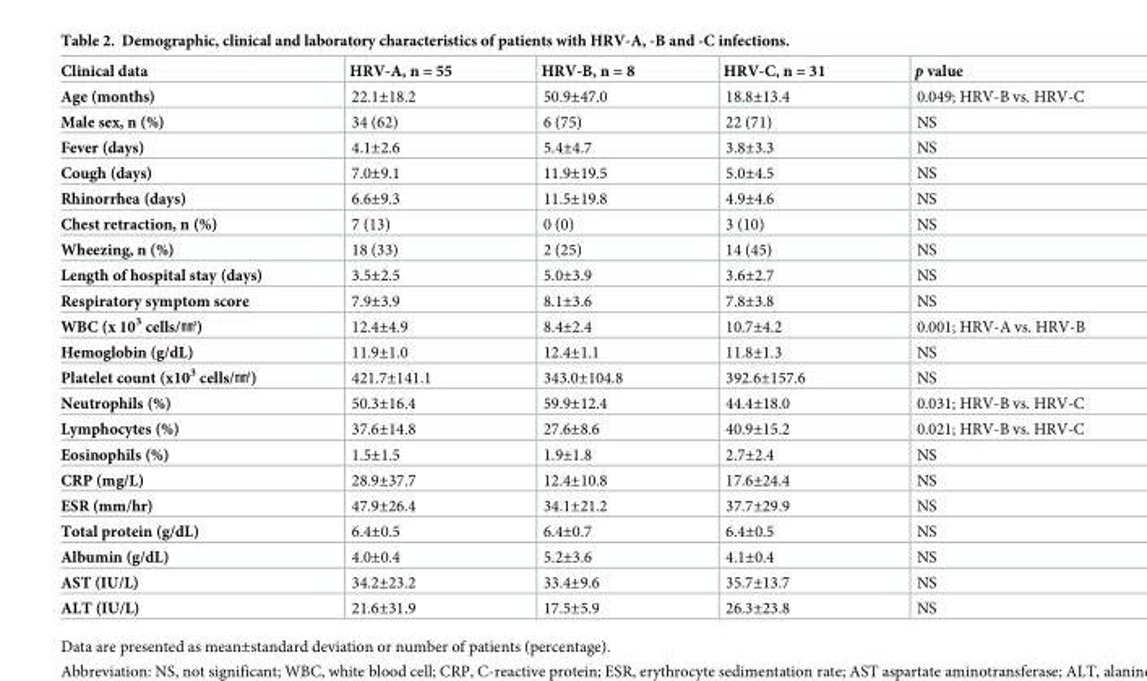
<table><thead><tr><td>Clinical data</td><td>HRV-A, n = 55</td><td>HRV-B, n = 8</td><td>HRV-C, n = 31</td><td>p value</td></tr></thead><tbody><tr><td>Age (months)</td><td>22.1±18.2</td><td>50.9±47.0</td><td>18.8±13.4</td><td>0.049; HRV-B vs. HRV-C</td></tr><tr><td>Male sex, n (%)</td><td>34 (62)</td><td>6 (75)</td><td>22 (71)</td><td>NS</td></tr><tr><td>Fever (days)</td><td>4.1±2.6</td><td>5.4±4.7</td><td>3.8±3.3</td><td>NS</td></tr><tr><td>Cough (days)</td><td>7.0±9.1</td><td>11.9±19.5</td><td>5.0±4.5</td><td>NS</td></tr><tr><td>Rhinorrhea (days)</td><td>6.6±9.3</td><td>11.5±19.8</td><td>4.9±4.6</td><td>NS</td></tr><tr><td>Chest retraction, n (%)</td><td>7 (13)</td><td>0 (0)</td><td>3 (10)</td><td>NS</td></tr><tr><td>Wheezing, n (%)</td><td>18 (33)</td><td>2 (25)</td><td>14 (45)</td><td>NS</td></tr><tr><td>Length of hospital stay (days)</td><td>3.5±2.5</td><td>5.0±3.9</td><td>3.6±2.7</td><td>NS</td></tr><tr><td>Respiratory symptom score</td><td>7.9±3.9</td><td>8.1±3.6</td><td>7.8±3.8</td><td>NS</td></tr><tr><td>WBC (x 10<sup>3</sup> cells/㎣)</td><td>12.4±4.9</td><td>8.4±2.4</td><td>10.7±4.2</td><td>0.001; HRV-A vs. HRV-B</td></tr><tr><td>Hemoglobin (g/dL)</td><td>11.9±1.0</td><td>12.4±1.1</td><td>11.8±1.3</td><td>NS</td></tr><tr><td>Platelet count (x10<sup>3</sup> cells/㎣)</td><td>421.7±141.1</td><td>343.0±104.8</td><td>392.6±157.6</td><td>NS</td></tr><tr><td>Neutrophils (%)</td><td>50.3±16.4</td><td>59.9±12.4</td><td>44.4±18.0</td><td>0.031; HRV-B vs. HRV-C</td></tr><tr><td>Lymphocytes (%)</td><td>37.6±14.8</td><td>27.6±8.6</td><td>40.9±15.2</td><td>0.021; HRV-B vs. HRV-C</td></tr><tr><td>Eosinophils (%)</td><td>1.5±1.5</td><td>1.9±1.8</td><td>2.7±2.4</td><td>NS</td></tr><tr><td>CRP (mg/L)</td><td>28.9±37.7</td><td>12.4±10.8</td><td>17.6±24.4</td><td>NS</td></tr><tr><td>ESR (mm/hr)</td><td>47.9±26.4</td><td>34.1±21.2</td><td>37.7±29.9</td><td>NS</td></tr><tr><td>Total protein (g/dL)</td><td>6.4±0.5</td><td>6.4±0.7</td><td>6.4±0.5</td><td>NS</td></tr><tr><td>Albumin (g/dL)</td><td>4.0±0.4</td><td>5.2±3.6</td><td>4.1±0.4</td><td>NS</td></tr><tr><td>AST (IU/L)</td><td>34.2±23.2</td><td>33.4±9.6</td><td>35.7±13.7</td><td>NS</td></tr><tr><td>ALT (IU/L)</td><td>21.6±31.9</td><td>17.5±5.9</td><td>26.3±23.8</td><td>NS</td></tr></tbody></table>